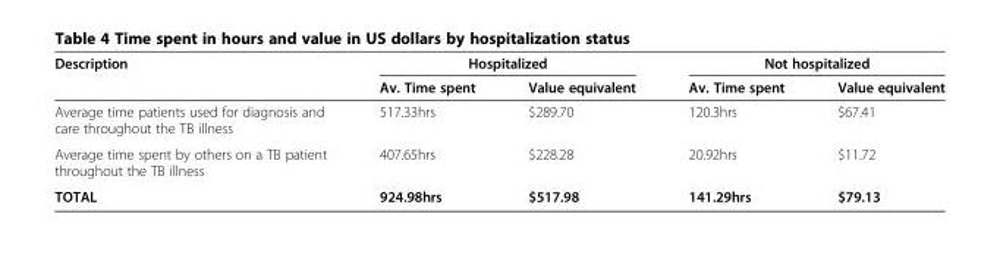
<table><thead><tr><td rowspan="2">Description</td><td colspan="2">Hospitalized</td><td colspan="2">Not hospitalized</td></tr><tr><td>Av. Time spent</td><td>Value equivalent</td><td>Av. Time spent</td><td>Value equivalent</td></tr></thead><tbody><tr><td>Average time patients used for diagnosis and care throughout the TB illness</td><td>517.33hrs</td><td>$289.70</td><td>120.3hrs</td><td>$67.41</td></tr><tr><td>Average time spent by others on a TB patient throughout the TB illness</td><td>407.65hrs</td><td>$228.28</td><td>20.92hrs</td><td>$11.72</td></tr><tr><td>TOTAL</td><td>924.98hrs</td><td>$517.98</td><td>141.29hrs</td><td>$79.13</td></tr></tbody></table>